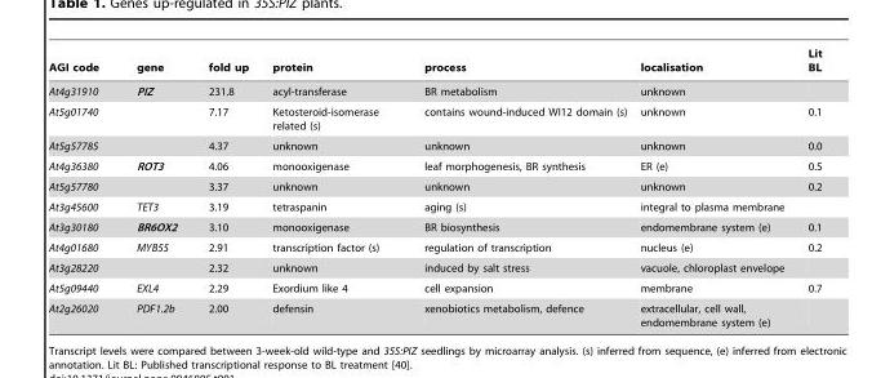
<table><thead><tr><td>AGI code</td><td>gene</td><td>fold up</td><td>protein</td><td>process</td><td>localisation</td><td>Lit BL</td></tr></thead><tbody><tr><td>At4g31910</td><td>PIZ</td><td>231.8</td><td>acyl-transferase</td><td>BR metabolism</td><td>unknown</td><td></td></tr><tr><td>At5g01740</td><td></td><td>7.17</td><td>Ketosteroid-isomerase related (s)</td><td>contains wound-induced WI12 domain (s)</td><td>unknown</td><td>0.1</td></tr><tr><td>At5g57785</td><td></td><td>4.37</td><td>unknown</td><td>unknown</td><td>unknown</td><td>0.0</td></tr><tr><td>At4g36380</td><td>ROT3</td><td>4.06</td><td>monooxigenase</td><td>leaf morphogenesis, BR synthesis</td><td>ER (e)</td><td>0.5</td></tr><tr><td>At5g57780</td><td></td><td>3.37</td><td>unknown</td><td>unknown</td><td>unknown</td><td>0.2</td></tr><tr><td>At3g45600</td><td>TET3</td><td>3.19</td><td>tetraspanin</td><td>aging (s)</td><td>integral to plasma membrane</td><td></td></tr><tr><td>At3g30180</td><td>BR6OX2</td><td>3.10</td><td>monooxigenase</td><td>BR biosynthesis</td><td>endomembrane system (e)</td><td>0.1</td></tr><tr><td>At4g01680</td><td>MYB55</td><td>2.91</td><td>transcription factor (s)</td><td>regulation of transcription</td><td>nucleus (e)</td><td>0.2</td></tr><tr><td>At3g28220</td><td></td><td>2.32</td><td>unknown</td><td>induced by salt stress</td><td>vacuole, chloroplast envelope</td><td></td></tr><tr><td>At5g09440</td><td>EXL4</td><td>2.29</td><td>Exordium like 4</td><td>cell expansion</td><td>membrane</td><td>0.7</td></tr><tr><td>At2g26020</td><td>PDF1.2b</td><td>2.00</td><td>defensin</td><td>xenobiotics metabolism, defence</td><td>extracellular, cell wall, endomembrane system (e)</td><td></td></tr></tbody></table>